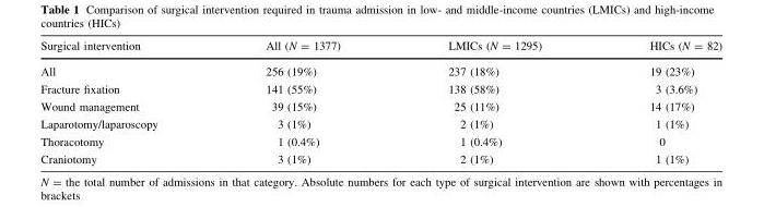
<table><thead><tr><td>Surgical intervention</td><td>All (N = 1377)</td><td>LMICs (N = 1295)</td><td>HICs (N = 82)</td></tr></thead><tbody><tr><td>All</td><td>256 (19%)</td><td>237 (18%)</td><td>19 (23%)</td></tr><tr><td>Fracture fixation</td><td>141 (55%)</td><td>138 (58%)</td><td>3 (3.6%)</td></tr><tr><td>Wound management</td><td>39 (15%)</td><td>25 (11%)</td><td>14 (17%)</td></tr><tr><td>Laparotomy/laparoscopy</td><td>3 (1%)</td><td>2 (1%)</td><td>1 (1%)</td></tr><tr><td>Thoracotomy</td><td>1 (0.4%)</td><td>1 (0.4%)</td><td>0</td></tr><tr><td>Craniotomy</td><td>3 (1%)</td><td>2 (1%)</td><td>1 (1%)</td></tr></tbody></table>